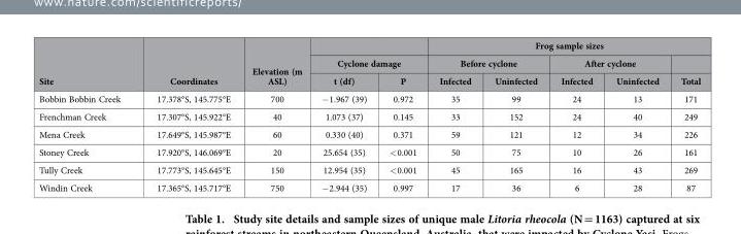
<table><thead><tr><td rowspan="3">Site</td><td rowspan="3">Coordinates</td><td rowspan="3">Elevation (m ASL)</td><td></td><td></td><td colspan="5">Frog sample sizes</td></tr><tr><td colspan="2">Cyclone damage</td><td colspan="2">Before cyclone</td><td colspan="2">After cyclone</td><td rowspan="2">Total</td></tr><tr><td>t (df)</td><td>P</td><td>Infected</td><td>Uninfected</td><td>Infected</td><td>Uninfected</td></tr></thead><tbody><tr><td>Bobbin Bobbin Creek</td><td>17.378°S, 145.775°E</td><td>700</td><td>− 1.967 (39)</td><td>0.972</td><td>35</td><td>99</td><td>24</td><td>13</td><td>171</td></tr><tr><td>Frenchman Creek</td><td>17.307°S, 145.922°E</td><td>40</td><td>1.073 (37)</td><td>0.145</td><td>33</td><td>152</td><td>24</td><td>40</td><td>249</td></tr><tr><td>Mena Creek</td><td>17.649°S, 145.987°E</td><td>60</td><td>0.330 (40)</td><td>0.371</td><td>59</td><td>121</td><td>12</td><td>34</td><td>226</td></tr><tr><td>Stoney Creek</td><td>17.920°S, 146.069°E</td><td>20</td><td>25.654 (35)</td><td>&lt; 0.001</td><td>50</td><td>75</td><td>10</td><td>26</td><td>161</td></tr><tr><td>Tully Creek</td><td>17.773°S, 145.645°E</td><td>150</td><td>12.954 (35)</td><td>&lt; 0.001</td><td>45</td><td>165</td><td>16</td><td>43</td><td>269</td></tr><tr><td>Windin Creek</td><td>17.365°S, 145.717°E</td><td>750</td><td>− 2.944 (35)</td><td>0.997</td><td>17</td><td>36</td><td>6</td><td>28</td><td>87</td></tr></tbody></table>